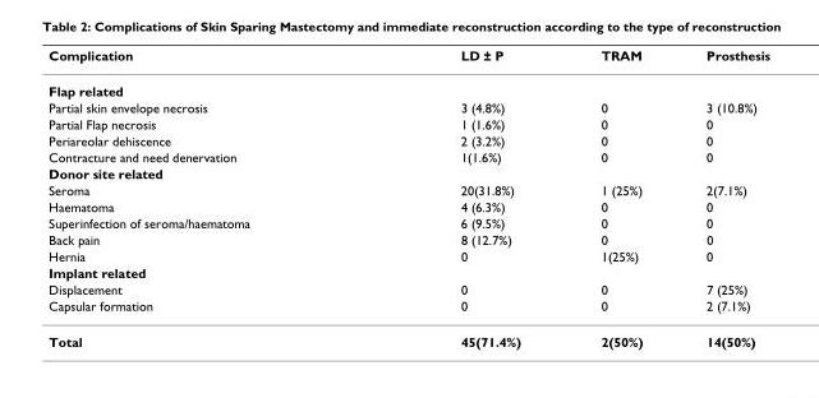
<table><thead><tr><td>Complication</td><td>LD ± P</td><td>TRAM</td><td>Prosthesis</td></tr></thead><tbody><tr><td colspan="4">Flap related</td></tr><tr><td>Partial skin envelope necrosis</td><td>3 (4.8%)</td><td>0</td><td>3 (10.8%)</td></tr><tr><td>Partial Flap necrosis</td><td>1 (1.6%)</td><td>0</td><td>0</td></tr><tr><td>Periareolar dehiscence</td><td>2 (3.2%)</td><td>0</td><td>0</td></tr><tr><td>Contracture and need denervation</td><td>1(1.6%)</td><td>0</td><td>0</td></tr><tr><td colspan="4">Donor site related</td></tr><tr><td>Seroma</td><td>20(31.8%)</td><td>1 (25%)</td><td>2(7.1%)</td></tr><tr><td>Haematoma</td><td>4 (6.3%)</td><td>0</td><td>0</td></tr><tr><td>Superinfection of seroma/haematoma</td><td>6 (9.5%)</td><td>0</td><td>0</td></tr><tr><td>Back pain</td><td>8 (12.7%)</td><td>0</td><td>0</td></tr><tr><td>Hernia</td><td>0</td><td>1(25%)</td><td>0</td></tr><tr><td colspan="4">Implant related</td></tr><tr><td>Displacement</td><td>0</td><td>0</td><td>7 (25%)</td></tr><tr><td>Capsular formation</td><td>0</td><td>0</td><td>2 (7.1%)</td></tr><tr><td>Total</td><td>45(71.4%)</td><td>2(50%)</td><td>14(50%)</td></tr></tbody></table>